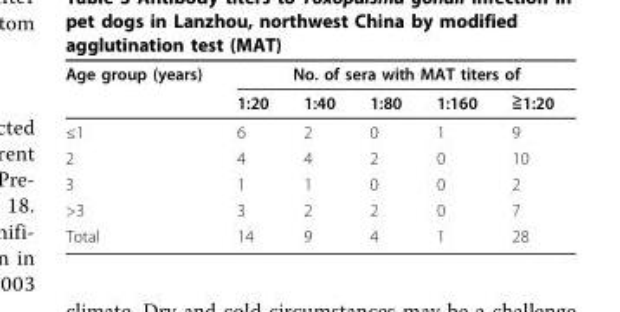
<table><thead><tr><td rowspan="2">Age group (years)</td><td colspan="5">No. of sera with MAT titers of</td></tr><tr><td>1:20</td><td>1:40</td><td>1:80</td><td>1:160</td><td>≧1:20</td></tr></thead><tbody><tr><td>≤1</td><td>6</td><td>2</td><td>0</td><td>1</td><td>9</td></tr><tr><td>2</td><td>4</td><td>4</td><td>2</td><td>0</td><td>10</td></tr><tr><td>3</td><td>1</td><td>1</td><td>0</td><td>0</td><td>2</td></tr><tr><td>&gt;3</td><td>3</td><td>2</td><td>2</td><td>0</td><td>7</td></tr><tr><td>Total</td><td>14</td><td>9</td><td>4</td><td>1</td><td>28</td></tr></tbody></table>